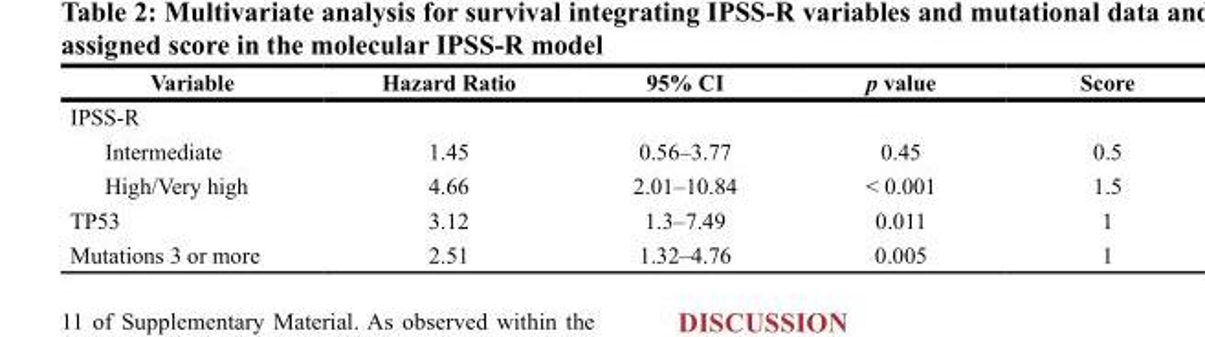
<table><thead><tr><td>Variable</td><td>Hazard Ratio</td><td>95% CI</td><td>p value</td><td>Score</td></tr></thead><tbody><tr><td colspan="5">IPSS-R</td></tr><tr><td>Intermediate</td><td>1.45</td><td>0.56–3.77</td><td>0.45</td><td>0.5</td></tr><tr><td>High/Very high</td><td>4.66</td><td>2.01–10.84</td><td>&lt; 0.001</td><td>1.5</td></tr><tr><td>TP53</td><td>3.12</td><td>1.3–7.49</td><td>0.011</td><td>1</td></tr><tr><td>Mutations 3 or more</td><td>2.51</td><td>1.32–4.76</td><td>0.005</td><td>1</td></tr></tbody></table>